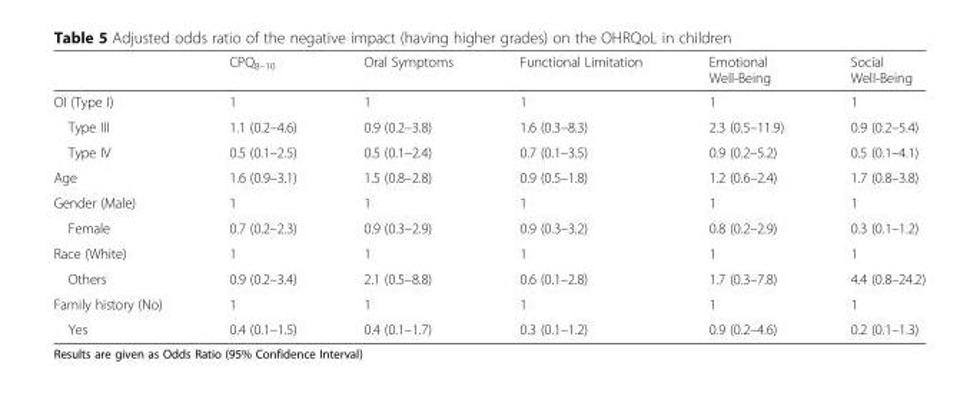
<table><thead><tr><td></td><td>CPQ<sub>8–10</sub></td><td>Oral Symptoms</td><td>Functional Limitation</td><td>Emotional Well-Being</td><td>Social Well-Being</td></tr></thead><tbody><tr><td>OI (Type I)</td><td>1</td><td>1</td><td>1</td><td>1</td><td>1</td></tr><tr><td>Type III</td><td>1.1 (0.2–4.6)</td><td>0.9 (0.2–3.8)</td><td>1.6 (0.3–8.3)</td><td>2.3 (0.5–11.9)</td><td>0.9 (0.2–5.4)</td></tr><tr><td>Type IV</td><td>0.5 (0.1–2.5)</td><td>0.5 (0.1–2.4)</td><td>0.7 (0.1–3.5)</td><td>0.9 (0.2–5.2)</td><td>0.5 (0.1–4.1)</td></tr><tr><td>Age</td><td>1.6 (0.9–3.1)</td><td>1.5 (0.8–2.8)</td><td>0.9 (0.5–1.8)</td><td>1.2 (0.6–2.4)</td><td>1.7 (0.8–3.8)</td></tr><tr><td>Gender (Male)</td><td>1</td><td>1</td><td>1</td><td>1</td><td>1</td></tr><tr><td>Female</td><td>0.7 (0.2–2.3)</td><td>0.9 (0.3–2.9)</td><td>0.9 (0.3–3.2)</td><td>0.8 (0.2–2.9)</td><td>0.3 (0.1–1.2)</td></tr><tr><td>Race (White)</td><td>1</td><td>1</td><td>1</td><td>1</td><td>1</td></tr><tr><td>Others</td><td>0.9 (0.2–3.4)</td><td>2.1 (0.5–8.8)</td><td>0.6 (0.1–2.8)</td><td>1.7 (0.3–7.8)</td><td>4.4 (0.8–24.2)</td></tr><tr><td>Family history (No)</td><td>1</td><td>1</td><td>1</td><td>1</td><td>1</td></tr><tr><td>Yes</td><td>0.4 (0.1–1.5)</td><td>0.4 (0.1–1.7)</td><td>0.3 (0.1–1.2)</td><td>0.9 (0.2–4.6)</td><td>0.2 (0.1–1.3)</td></tr></tbody></table>